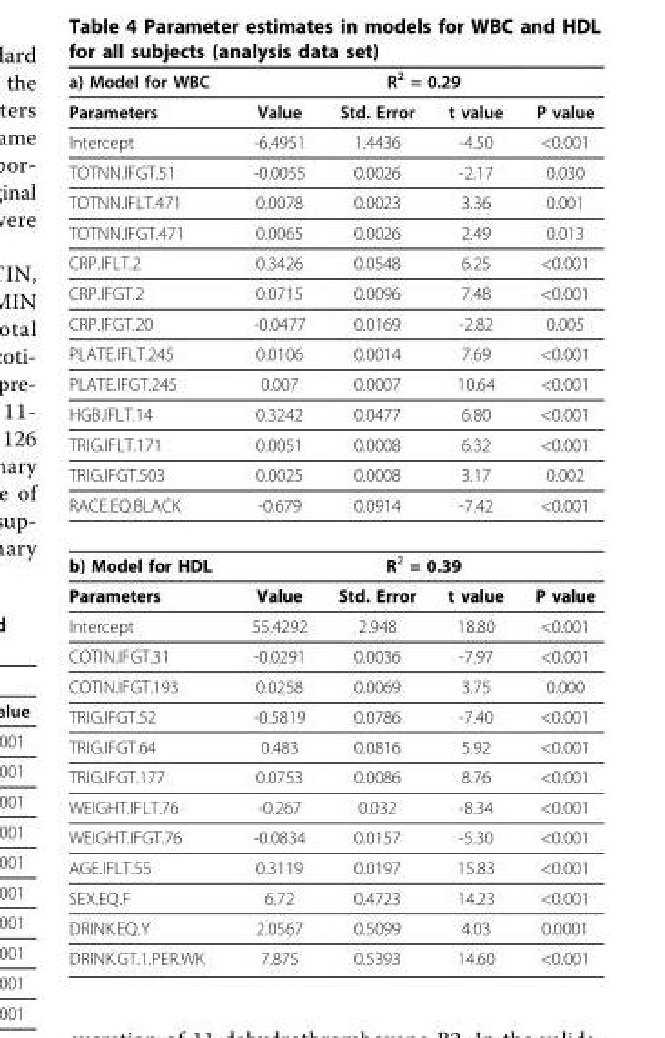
<table><thead><tr><td rowspan="2">a) Model for WBC Parameters</td><td colspan="4">R2 = 0.29</td></tr><tr><td>Value</td><td>Std. Error</td><td>t value</td><td>P value</td></tr></thead><tbody><tr><td>Intercept</td><td>-6.4951</td><td>1.4436</td><td>-4.50</td><td>&lt;0.001</td></tr><tr><td>TOTNN.IFGT.51</td><td>-0.0055</td><td>0.0026</td><td>-2.17</td><td>0.030</td></tr><tr><td>TOTNN.IFLT.471</td><td>0.0078</td><td>0.0023</td><td>3.36</td><td>0.001</td></tr><tr><td>TOTNN.IFGT.471</td><td>0.0065</td><td>0.0026</td><td>2.49</td><td>0.013</td></tr><tr><td>CRP.IFLT.2</td><td>0.3426</td><td>0.0548</td><td>6.25</td><td>&lt;0.001</td></tr><tr><td>CRP.IFGT.2</td><td>0.0715</td><td>0.0096</td><td>7.48</td><td>&lt;0.001</td></tr><tr><td>CRP.IFGT.20</td><td>-0.0477</td><td>0.0169</td><td>-2.82</td><td>0.005</td></tr><tr><td>PLATE.IFLT.245</td><td>0.0106</td><td>0.0014</td><td>7.69</td><td>&lt;0.001</td></tr><tr><td>PLATE.IFGT.245</td><td>0.007</td><td>0.0007</td><td>10.64</td><td>&lt;0.001</td></tr><tr><td>HGB.IFLT.14</td><td>0.3242</td><td>0.0477</td><td>6.80</td><td>&lt;0.001</td></tr><tr><td>TRIG.IFLT.171</td><td>0.0051</td><td>0.0008</td><td>6.32</td><td>&lt;0.001</td></tr><tr><td>TRIG.IFGT.503</td><td>0.0025</td><td>0.0008</td><td>3.17</td><td>0.002</td></tr><tr><td>RACE.EQ.BLACK</td><td>-0.679</td><td>0.0914</td><td>-7.42</td><td>&lt;0.001</td></tr><tr><td>b) Model for HDL</td><td colspan="4">R2 = 0.39</td></tr><tr><td>Parameters</td><td>Value</td><td>Std. Error</td><td>t value</td><td>P value</td></tr><tr><td>Intercept</td><td>55.4292</td><td>2.948</td><td>18.80</td><td>&lt;0.001</td></tr><tr><td>COTIN.IFGT.31</td><td>-0.0291</td><td>0.0036</td><td>-7.97</td><td>&lt;0.001</td></tr><tr><td>COTIN.IFGT.193</td><td>0.0258</td><td>0.0069</td><td>3.75</td><td>0.000</td></tr><tr><td>TRIG.IFGT.52</td><td>-0.5819</td><td>0.0786</td><td>-7.40</td><td>&lt;0.001</td></tr><tr><td>TRIG.IFGT.64</td><td>0.483</td><td>0.0816</td><td>5.92</td><td>&lt;0.001</td></tr><tr><td>TRIG.IFGT.177</td><td>0.0753</td><td>0.0086</td><td>8.76</td><td>&lt;0.001</td></tr><tr><td>WEIGHT.IFLT.76</td><td>-0.267</td><td>0.032</td><td>-8.34</td><td>&lt;0.001</td></tr><tr><td>WEIGHT.IFGT.76</td><td>-0.0834</td><td>0.0157</td><td>-5.30</td><td>&lt;0.001</td></tr><tr><td>AGE.IFLT.55</td><td>0.3119</td><td>0.0197</td><td>15.83</td><td>&lt;0.001</td></tr><tr><td>SEX.EQ.F</td><td>6.72</td><td>0.4723</td><td>14.23</td><td>&lt;0.001</td></tr><tr><td>DRINK.EQ.Y</td><td>2.0567</td><td>0.5099</td><td>4.03</td><td>0.0001</td></tr><tr><td>DRINK.GT.1.PER.WK</td><td>7.875</td><td>0.5393</td><td>14.60</td><td>&lt;0.001</td></tr></tbody></table>